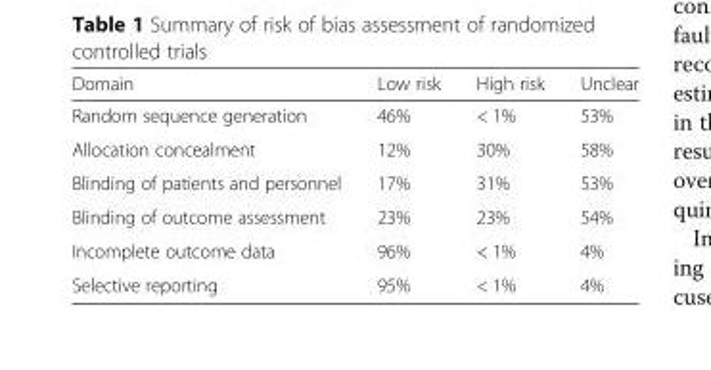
<table><thead><tr><td>Domain</td><td>Low risk</td><td>High risk</td><td>Unclear</td></tr></thead><tbody><tr><td>Random sequence generation</td><td>46%</td><td>&lt; 1%</td><td>53%</td></tr><tr><td>Allocation concealment</td><td>12%</td><td>30%</td><td>58%</td></tr><tr><td>Blinding of patients and personnel</td><td>17%</td><td>31%</td><td>53%</td></tr><tr><td>Blinding of outcome assessment</td><td>23%</td><td>23%</td><td>54%</td></tr><tr><td>Incomplete outcome data</td><td>96%</td><td>&lt; 1%</td><td>4%</td></tr><tr><td>Selective reporting</td><td>95%</td><td>&lt; 1%</td><td>4%</td></tr></tbody></table>